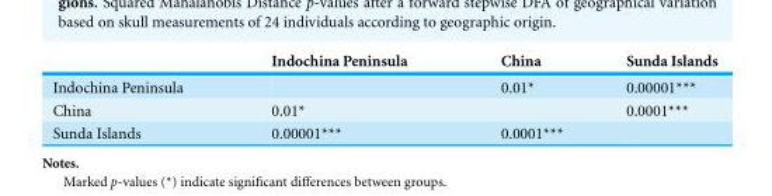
<table><thead><tr><td></td><td>Indochina Peninsula</td><td>China</td><td>Sunda Islands</td></tr></thead><tbody><tr><td>Indochina Peninsula</td><td></td><td>0.01*</td><td>0.00001***</td></tr><tr><td>China</td><td>0.01*</td><td></td><td>0.0001***</td></tr><tr><td>Sunda Islands</td><td>0.00001***</td><td>0.0001***</td><td></td></tr></tbody></table>